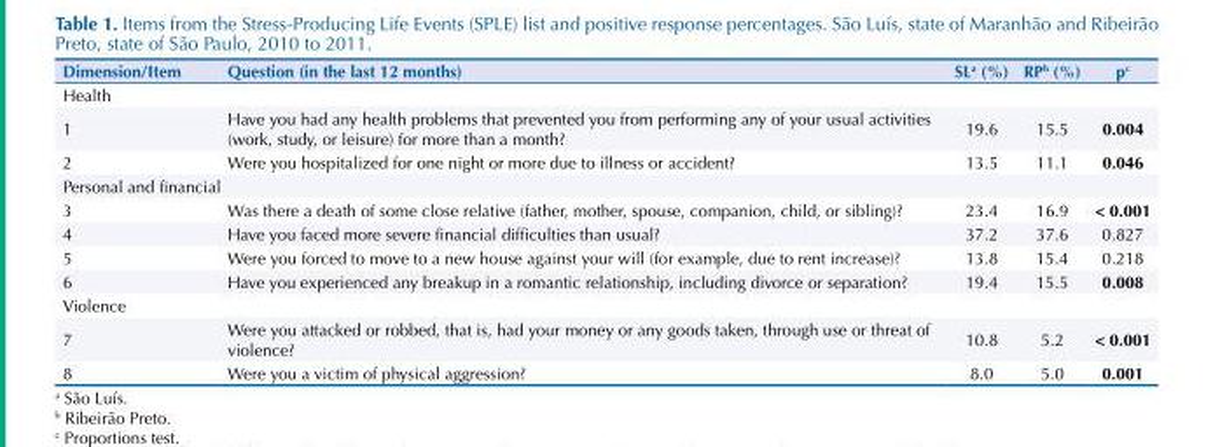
<table><thead><tr><td>Dimension/Item</td><td>Question (in the last 12 months)</td><td>SL<sup>a</sup> (%)</td><td>RP<sup>b</sup> (%)</td><td>p<sup>c</sup></td></tr></thead><tbody><tr><td colspan="5">Health</td></tr><tr><td>1</td><td>Have you had any health problems that prevented you from performing any of your usual activities (work, study, or leisure) for more than a month?</td><td>19.6</td><td>15.5</td><td>0.004</td></tr><tr><td>2</td><td>Were you hospitalized for one night or more due to illness or accident?</td><td>13.5</td><td>11.1</td><td>0.046</td></tr><tr><td colspan="5">Personal and financial</td></tr><tr><td>3</td><td>Was there a death of some close relative (father, mother, spouse, companion, child, or sibling)?</td><td>23.4</td><td>16.9</td><td>&lt; 0.001</td></tr><tr><td>4</td><td>Have you faced more severe financial difficulties than usual?</td><td>37.2</td><td>37.6</td><td>0.827</td></tr><tr><td>5</td><td>Were you forced to move to a new house against your will (for example, due to rent increase)?</td><td>13.8</td><td>15.4</td><td>0.218</td></tr><tr><td>6</td><td>Have you experienced any breakup in a romantic relationship, including divorce or separation?</td><td>19.4</td><td>15.5</td><td>0.008</td></tr><tr><td colspan="5">Violence</td></tr><tr><td>7</td><td>Were you attacked or robbed, that is, had your money or any goods taken, through use or threat of violence?</td><td>10.8</td><td>5.2</td><td>&lt; 0.001</td></tr><tr><td>8</td><td>Were you a victim of physical aggression?</td><td>8.0</td><td>5.0</td><td>0.001</td></tr></tbody></table>